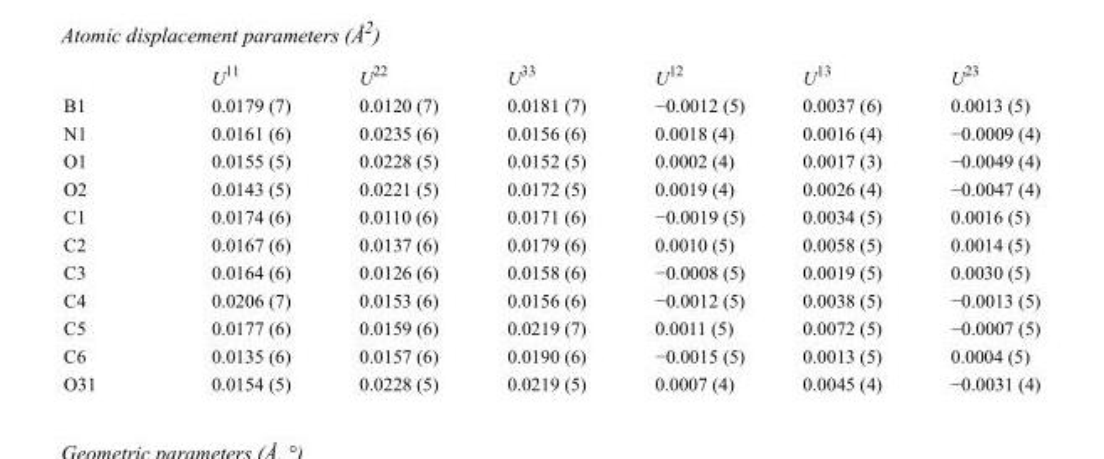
<table><thead><tr><td></td><td>U<sup>11</sup></td><td>U<sup>22</sup></td><td>U<sup>33</sup></td><td>U<sup>12</sup></td><td>U<sup>13</sup></td><td>U<sup>23</sup></td></tr></thead><tbody><tr><td>B1</td><td>0.0179 (7)</td><td>0.0120 (7)</td><td>0.0181 (7)</td><td>−0.0012 (5)</td><td>0.0037 (6)</td><td>0.0013 (5)</td></tr><tr><td>N1</td><td>0.0161 (6)</td><td>0.0235 (6)</td><td>0.0156 (6)</td><td>0.0018 (4)</td><td>0.0016 (4)</td><td>−0.0009 (4)</td></tr><tr><td>O1</td><td>0.0155 (5)</td><td>0.0228 (5)</td><td>0.0152 (5)</td><td>0.0002 (4)</td><td>0.0017 (3)</td><td>−0.0049 (4)</td></tr><tr><td>O2</td><td>0.0143 (5)</td><td>0.0221 (5)</td><td>0.0172 (5)</td><td>0.0019 (4)</td><td>0.0026 (4)</td><td>−0.0047 (4)</td></tr><tr><td>C1</td><td>0.0174 (6)</td><td>0.0110 (6)</td><td>0.0171 (6)</td><td>−0.0019 (5)</td><td>0.0034 (5)</td><td>0.0016 (5)</td></tr><tr><td>C2</td><td>0.0167 (6)</td><td>0.0137 (6)</td><td>0.0179 (6)</td><td>0.0010 (5)</td><td>0.0058 (5)</td><td>0.0014 (5)</td></tr><tr><td>C3</td><td>0.0164 (6)</td><td>0.0126 (6)</td><td>0.0158 (6)</td><td>−0.0008 (5)</td><td>0.0019 (5)</td><td>0.0030 (5)</td></tr><tr><td>C4</td><td>0.0206 (7)</td><td>0.0153 (6)</td><td>0.0156 (6)</td><td>−0.0012 (5)</td><td>0.0038 (5)</td><td>−0.0013 (5)</td></tr><tr><td>C5</td><td>0.0177 (6)</td><td>0.0159 (6)</td><td>0.0219 (7)</td><td>0.0011 (5)</td><td>0.0072 (5)</td><td>−0.0007 (5)</td></tr><tr><td>C6</td><td>0.0135 (6)</td><td>0.0157 (6)</td><td>0.0190 (6)</td><td>−0.0015 (5)</td><td>0.0013 (5)</td><td>0.0004 (5)</td></tr><tr><td>O31</td><td>0.0154 (5)</td><td>0.0228 (5)</td><td>0.0219 (5)</td><td>0.0007 (4)</td><td>0.0045 (4)</td><td>−0.0031 (4)</td></tr></tbody></table>